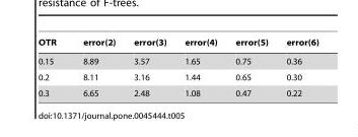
<table><thead><tr><td>OTR</td><td>error(2)</td><td>error(3)</td><td>error(4)</td><td>error(5)</td><td>error(6)</td></tr></thead><tbody><tr><td>0.15</td><td>8.89</td><td>3.57</td><td>1.65</td><td>0.75</td><td>0.36</td></tr><tr><td>0.2</td><td>8.11</td><td>3.16</td><td>1.44</td><td>0.65</td><td>0.30</td></tr><tr><td>0.3</td><td>6.65</td><td>2.48</td><td>1.08</td><td>0.47</td><td>0.22</td></tr></tbody></table>